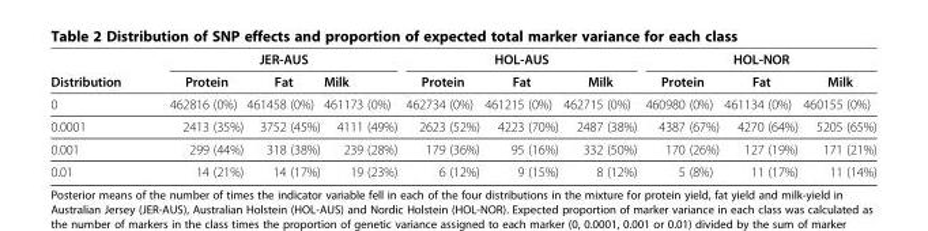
<table><thead><tr><td rowspan="2">Distribution</td><td colspan="3">JER-AUS</td><td colspan="3">HOL-AUS</td><td colspan="3">HOL-NOR</td></tr><tr><td>Protein</td><td>Fat</td><td>Milk</td><td>Protein</td><td>Fat</td><td>Milk</td><td>Protein</td><td>Fat</td><td>Milk</td></tr></thead><tbody><tr><td>0</td><td>462816 (0%)</td><td>461458 (0%)</td><td>461173 (0%)</td><td>462734 (0%)</td><td>461215 (0%)</td><td>462715 (0%)</td><td>460980 (0%)</td><td>461134 (0%)</td><td>460155 (0%)</td></tr><tr><td>0.0001</td><td>2413 (35%)</td><td>3752 (45%)</td><td>4111 (49%)</td><td>2623 (52%)</td><td>4223 (70%)</td><td>2487 (38%)</td><td>4387 (67%)</td><td>4270 (64%)</td><td>5205 (65%)</td></tr><tr><td>0.001</td><td>299 (44%)</td><td>318 (38%)</td><td>239 (28%)</td><td>179 (36%)</td><td>95 (16%)</td><td>332 (50%)</td><td>170 (26%)</td><td>127 (19%)</td><td>171 (21%)</td></tr><tr><td>0.01</td><td>14 (21%)</td><td>14 (17%)</td><td>19 (23%)</td><td>6 (12%)</td><td>9 (15%)</td><td>8 (12%)</td><td>5 (8%)</td><td>11 (17%)</td><td>11 (14%)</td></tr></tbody></table>